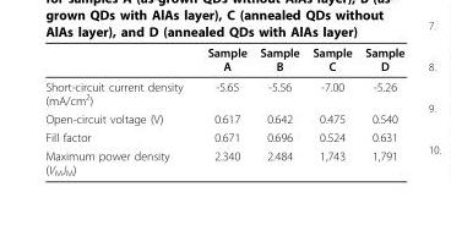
<table><thead><tr><td></td><td>Sample A</td><td>Sample B</td><td>Sample C</td><td>Sample D</td></tr></thead><tbody><tr><td>Short-circuit current density (mA/cm<sup>2</sup>)</td><td>-5.65</td><td>-5.56</td><td>-7.00</td><td>-5.26</td></tr><tr><td>Open-circuit voltage (V)</td><td>0.617</td><td>0.642</td><td>0.475</td><td>0.540</td></tr><tr><td>Fill factor</td><td>0.671</td><td>0.696</td><td>0.524</td><td>0.631</td></tr><tr><td>Maximum power density (V<sub>M</sub>J<sub>M</sub>)</td><td>2.340</td><td>2.484</td><td>1,743</td><td>1,791</td></tr></tbody></table>